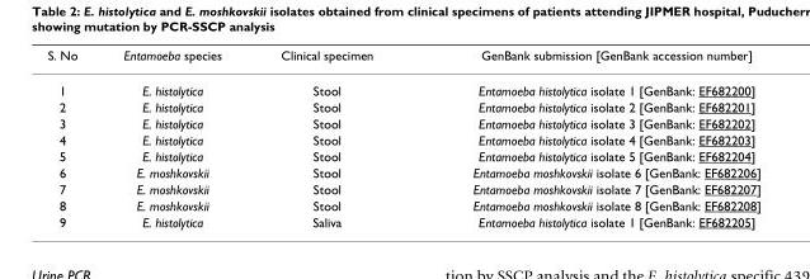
<table><thead><tr><td>S. No</td><td>Entamoeba species</td><td>Clinical specimen</td><td>GenBank submission [GenBank accession number]</td></tr></thead><tbody><tr><td>1</td><td>E. histolytica</td><td>Stool</td><td>Entamoeba histolytica isolate 1 [GenBank: EF682200]</td></tr><tr><td>2</td><td>E. histolytica</td><td>Stool</td><td>Entamoeba histolytica isolate 2 [GenBank: EF682201]</td></tr><tr><td>3</td><td>E. histolytica</td><td>Stool</td><td>Entamoeba histolytica isolate 3 [GenBank: EF682202]</td></tr><tr><td>4</td><td>E. histolytica</td><td>Stool</td><td>Entamoeba histolytica isolate 4 [GenBank: EF682203]</td></tr><tr><td>5</td><td>E. histolytica</td><td>Stool</td><td>Entamoeba histolytica isolate 5 [GenBank: EF682204]</td></tr><tr><td>6</td><td>E. moshkovskii</td><td>Stool</td><td>Entamoeba moshkovskii isolate 6 [GenBank: EF682206]</td></tr><tr><td>7</td><td>E. moshkovskii</td><td>Stool</td><td>Entamoeba moshkovskii isolate 7 [GenBank: EF682207]</td></tr><tr><td>8</td><td>E. moshkovskii</td><td>Stool</td><td>Entamoeba moshkovskii isolate 8 [GenBank: EF682208]</td></tr><tr><td>9</td><td>E. histolytica</td><td>Saliva</td><td>Entamoeba histolytica isolate 1 [GenBank: EF682205]</td></tr></tbody></table>